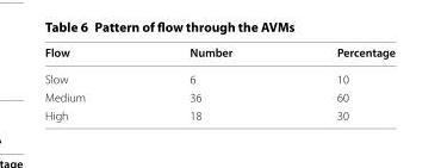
<table><thead><tr><td>Flow</td><td>Number</td><td>Percentage</td></tr></thead><tbody><tr><td>Slow</td><td>6</td><td>10</td></tr><tr><td>Medium</td><td>36</td><td>60</td></tr><tr><td>High</td><td>18</td><td>30</td></tr></tbody></table>